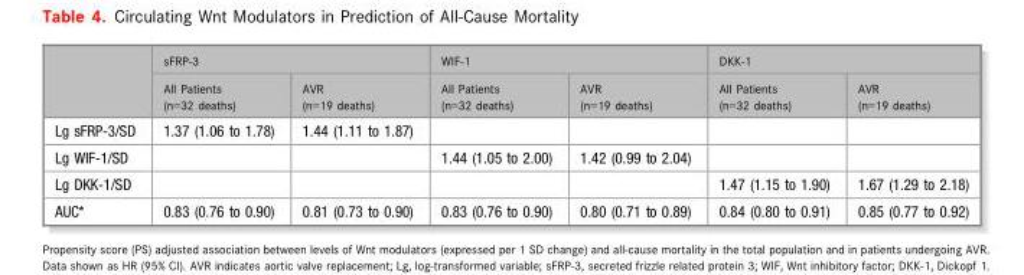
<table><thead><tr><td rowspan="2"></td><td colspan="2">sFRP-3</td><td colspan="2">WIF-1</td><td colspan="2">DKK-1</td></tr><tr><td>All Patients (n=32 deaths)</td><td>AVR (n=19 deaths)</td><td>All Patients (n=32 deaths)</td><td>AVR (n=19 deaths)</td><td>All Patients (n=32 deaths)</td><td>AVR (n=19 deaths)</td></tr></thead><tbody><tr><td>Lg sFRP-3/SD</td><td>1.37 (1.06 to 1.78)</td><td>1.44 (1.11 to 1.87)</td><td></td><td></td><td></td><td></td></tr><tr><td>Lg WIF-1/SD</td><td></td><td></td><td>1.44 (1.05 to 2.00)</td><td>1.42 (0.99 to 2.04)</td><td></td><td></td></tr><tr><td>Lg DKK-1/SD</td><td></td><td></td><td></td><td></td><td>1.47 (1.15 to 1.90)</td><td>1.67 (1.29 to 2.18)</td></tr><tr><td>AUC*</td><td>0.83 (0.76 to 0.90)</td><td>0.81 (0.73 to 0.90)</td><td>0.83 (0.76 to 0.90)</td><td>0.80 (0.71 to 0.89)</td><td>0.84 (0.80 to 0.91)</td><td>0.85 (0.77 to 0.92)</td></tr></tbody></table>